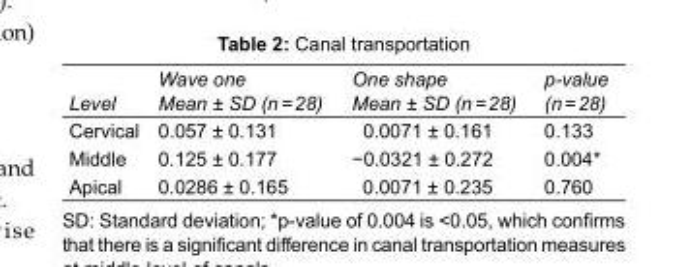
<table><tbody><tr><td>Level</td><td>Wave one Mean ± SD (n = 28)</td><td>One shape Mean ± SD (n = 28)</td><td>p-value (n = 28)</td></tr><tr><td>Cervical</td><td>0.057 ± 0.131</td><td>0.0071 ± 0.161</td><td>0.133</td></tr><tr><td>Middle</td><td>0.125 ± 0.177</td><td>−0.0321 ± 0.272</td><td>0.004*</td></tr><tr><td>Apical</td><td>0.0286 ± 0.165</td><td>0.0071 ± 0.235</td><td>0.760</td></tr></tbody></table>